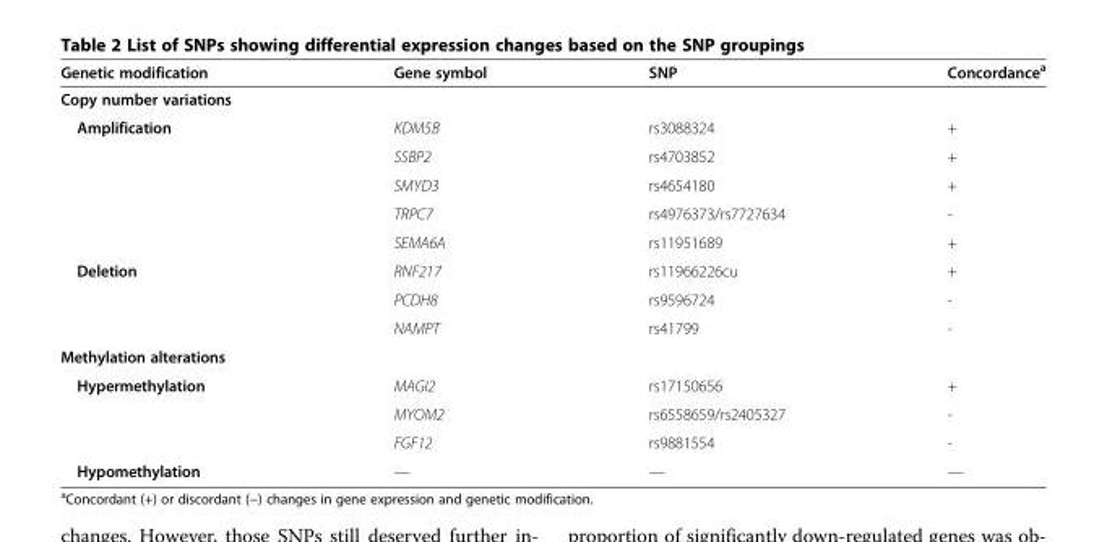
<table><thead><tr><td>Genetic modification</td><td>Gene symbol</td><td>SNP</td><td>Concordance<sup>a</sup></td></tr></thead><tbody><tr><td colspan="4">Copy number variations</td></tr><tr><td rowspan="5">Amplification</td><td>KDM5B</td><td>rs3088324</td><td>+</td></tr><tr><td>SSBP2</td><td>rs4703852</td><td>+</td></tr><tr><td>SMYD3</td><td>rs4654180</td><td>+</td></tr><tr><td>TRPC7</td><td>rs4976373/rs7727634</td><td>-</td></tr><tr><td>SEMA6A</td><td>rs11951689</td><td>+</td></tr><tr><td rowspan="3">Deletion</td><td>RNF217</td><td>rs11966226cu</td><td>+</td></tr><tr><td>PCDH8</td><td>rs9596724</td><td>-</td></tr><tr><td>NAMPT</td><td>rs41799</td><td>-</td></tr><tr><td colspan="4">Methylation alterations</td></tr><tr><td rowspan="3">Hypermethylation</td><td>MAGI2</td><td>rs17150656</td><td>+</td></tr><tr><td>MYOM2</td><td>rs6558659/rs2405327</td><td>-</td></tr><tr><td>FGF12</td><td>rs9881554</td><td>-</td></tr><tr><td>Hypomethylation</td><td>—</td><td>—</td><td>—</td></tr></tbody></table>